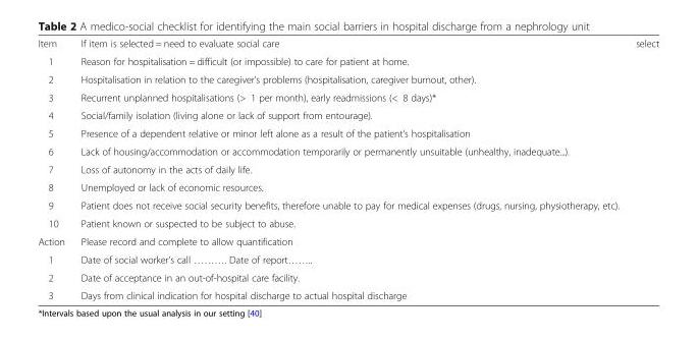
<table><tbody><tr><td>Item</td><td>If item is selected = need to evaluate social care</td><td>select</td></tr><tr><td>1</td><td>Reason for hospitalisation = difficult (or impossible) to care for patient at home.</td><td></td></tr><tr><td>2</td><td>Hospitalisation in relation to the caregiver’s problems (hospitalisation, caregiver burnout, other).</td><td></td></tr><tr><td>3</td><td>Recurrent unplanned hospitalisations (&gt; 1 per month), early readmissions (&lt; 8 days)*</td><td></td></tr><tr><td>4</td><td>Social/family isolation (living alone or lack of support from entourage).</td><td></td></tr><tr><td>5</td><td>Presence of a dependent relative or minor left alone as a result of the patient’s hospitalisation</td><td></td></tr><tr><td>6</td><td>Lack of housing/accommodation or accommodation temporarily or permanently unsuitable (unhealthy, inadequate...).</td><td></td></tr><tr><td>7</td><td>Loss of autonomy in the acts of daily life.</td><td></td></tr><tr><td>8</td><td>Unemployed or lack of economic resources.</td><td></td></tr><tr><td>9</td><td>Patient does not receive social security benefits, therefore unable to pay for medical expenses (drugs, nursing, physiotherapy, etc).</td><td></td></tr><tr><td>10</td><td>Patient known or suspected to be subject to abuse.</td><td></td></tr><tr><td>Action</td><td>Please record and complete to allow quantification</td><td></td></tr><tr><td>1</td><td>Date of social worker’s call ………. Date of report……..</td><td></td></tr><tr><td>2</td><td>Date of acceptance in an out-of-hospital care facility.</td><td></td></tr><tr><td>3</td><td>Days from clinical indication for hospital discharge to actual hospital discharge</td><td></td></tr></tbody></table>